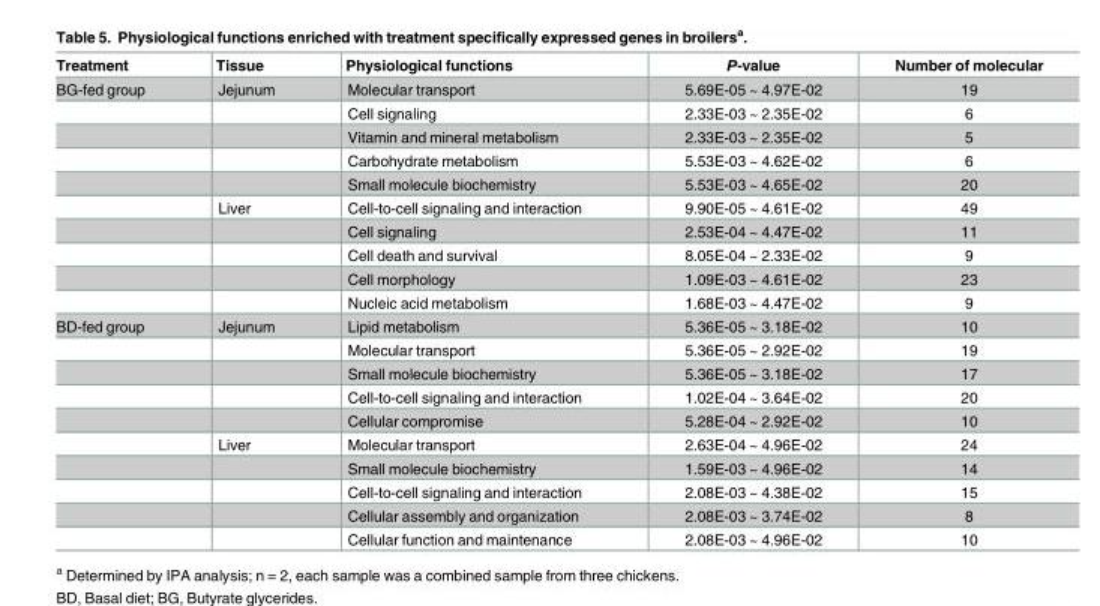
<table><thead><tr><td>Treatment</td><td>Tissue</td><td>Physiological functions</td><td>P-value</td><td>Number of molecular</td></tr></thead><tbody><tr><td rowspan="10">BG-fed group</td><td>Jejunum</td><td>Molecular transport</td><td>5.69E-05 ~ 4.97E-02</td><td>19</td></tr><tr><td></td><td>Cell signaling</td><td>2.33E-03 ~ 2.35E-02</td><td>6</td></tr><tr><td></td><td>Vitamin and mineral metabolism</td><td>2.33E-03 ~ 2.35E-02</td><td>5</td></tr><tr><td></td><td>Carbohydrate metabolism</td><td>5.53E-03 ~ 4.62E-02</td><td>6</td></tr><tr><td></td><td>Small molecule biochemistry</td><td>5.53E-03 ~ 4.65E-02</td><td>20</td></tr><tr><td>Liver</td><td>Cell-to-cell signaling and interaction</td><td>9.90E-05 ~ 4.61E-02</td><td>49</td></tr><tr><td></td><td>Cell signaling</td><td>2.53E-04 ~ 4.47E-02</td><td>11</td></tr><tr><td></td><td>Cell death and survival</td><td>8.05E-04 ~ 2.33E-02</td><td>9</td></tr><tr><td></td><td>Cell morphology</td><td>1.09E-03 ~ 4.61E-02</td><td>23</td></tr><tr><td></td><td>Nucleic acid metabolism</td><td>1.68E-03 ~ 4.47E-02</td><td>9</td></tr><tr><td rowspan="10">BD-fed group</td><td>Jejunum</td><td>Lipid metabolism</td><td>5.36E-05 ~ 3.18E-02</td><td>10</td></tr><tr><td></td><td>Molecular transport</td><td>5.36E-05 ~ 2.92E-02</td><td>19</td></tr><tr><td></td><td>Small molecule biochemistry</td><td>5.36E-05 ~ 3.18E-02</td><td>17</td></tr><tr><td></td><td>Cell-to-cell signaling and interaction</td><td>1.02E-04 ~ 3.64E-02</td><td>20</td></tr><tr><td></td><td>Cellular compromise</td><td>5.28E-04 ~ 2.92E-02</td><td>10</td></tr><tr><td>Liver</td><td>Molecular transport</td><td>2.63E-04 ~ 4.96E-02</td><td>24</td></tr><tr><td></td><td>Small molecule biochemistry</td><td>1.59E-03 ~ 4.96E-02</td><td>14</td></tr><tr><td></td><td>Cell-to-cell signaling and interaction</td><td>2.08E-03 ~ 4.38E-02</td><td>15</td></tr><tr><td></td><td>Cellular assembly and organization</td><td>2.08E-03 ~ 3.74E-02</td><td>8</td></tr><tr><td></td><td>Cellular function and maintenance</td><td>2.08E-03 ~ 4.96E-02</td><td>10</td></tr></tbody></table>